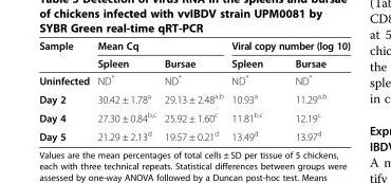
<table><thead><tr><td rowspan="2">Sample</td><td colspan="2">Mean Cq</td><td colspan="2">Viral copy number (log 10)</td></tr><tr><td>Spleen</td><td>Bursae</td><td>Spleen</td><td>Bursae</td></tr></thead><tbody><tr><td>Uninfected</td><td>ND*</td><td>ND*</td><td>ND*</td><td>ND*</td></tr><tr><td>Day 2</td><td>30.42 ± 1.78<sup>a</sup></td><td>29.13 ± 2.48<sup>a,b</sup></td><td>10.93<sup>a</sup></td><td>11.29<sup>a,b</sup></td></tr><tr><td>Day 4</td><td>27.30 ± 0.84<sup>b,c</sup></td><td>25.92 ± 1.60<sup>c</sup></td><td>11.81<sup>b,c</sup></td><td>12.19<sup>c</sup></td></tr><tr><td>Day 5</td><td>21.29 ± 2.13<sup>d</sup></td><td>19.57 ± 0.21<sup>d</sup></td><td>13.49<sup>d</sup></td><td>13.97<sup>d</sup></td></tr></tbody></table>